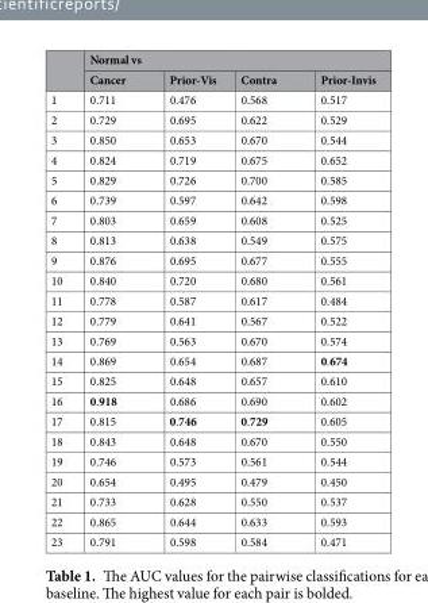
<table><thead><tr><td rowspan="2"></td><td colspan="4">Normal vs</td></tr><tr><td>Cancer</td><td>Prior-Vis</td><td>Contra</td><td>Prior-Invis</td></tr></thead><tbody><tr><td>1</td><td>0.711</td><td>0.476</td><td>0.568</td><td>0.517</td></tr><tr><td>2</td><td>0.729</td><td>0.695</td><td>0.622</td><td>0.529</td></tr><tr><td>3</td><td>0.850</td><td>0.653</td><td>0.670</td><td>0.544</td></tr><tr><td>4</td><td>0.824</td><td>0.719</td><td>0.675</td><td>0.652</td></tr><tr><td>5</td><td>0.829</td><td>0.726</td><td>0.700</td><td>0.585</td></tr><tr><td>6</td><td>0.739</td><td>0.597</td><td>0.642</td><td>0.598</td></tr><tr><td>7</td><td>0.803</td><td>0.659</td><td>0.608</td><td>0.525</td></tr><tr><td>8</td><td>0.813</td><td>0.638</td><td>0.549</td><td>0.575</td></tr><tr><td>9</td><td>0.876</td><td>0.695</td><td>0.677</td><td>0.555</td></tr><tr><td>10</td><td>0.840</td><td>0.720</td><td>0.680</td><td>0.561</td></tr><tr><td>11</td><td>0.778</td><td>0.587</td><td>0.617</td><td>0.484</td></tr><tr><td>12</td><td>0.779</td><td>0.641</td><td>0.567</td><td>0.522</td></tr><tr><td>13</td><td>0.769</td><td>0.563</td><td>0.670</td><td>0.574</td></tr><tr><td>14</td><td>0.869</td><td>0.654</td><td>0.687</td><td>0.674</td></tr><tr><td>15</td><td>0.825</td><td>0.648</td><td>0.657</td><td>0.610</td></tr><tr><td>16</td><td>0.918</td><td>0.686</td><td>0.690</td><td>0.602</td></tr><tr><td>17</td><td>0.815</td><td>0.746</td><td>0.729</td><td>0.605</td></tr><tr><td>18</td><td>0.843</td><td>0.648</td><td>0.670</td><td>0.550</td></tr><tr><td>19</td><td>0.746</td><td>0.573</td><td>0.561</td><td>0.544</td></tr><tr><td>20</td><td>0.654</td><td>0.495</td><td>0.479</td><td>0.450</td></tr><tr><td>21</td><td>0.733</td><td>0.628</td><td>0.550</td><td>0.537</td></tr><tr><td>22</td><td>0.865</td><td>0.644</td><td>0.633</td><td>0.593</td></tr><tr><td>23</td><td>0.791</td><td>0.598</td><td>0.584</td><td>0.471</td></tr></tbody></table>